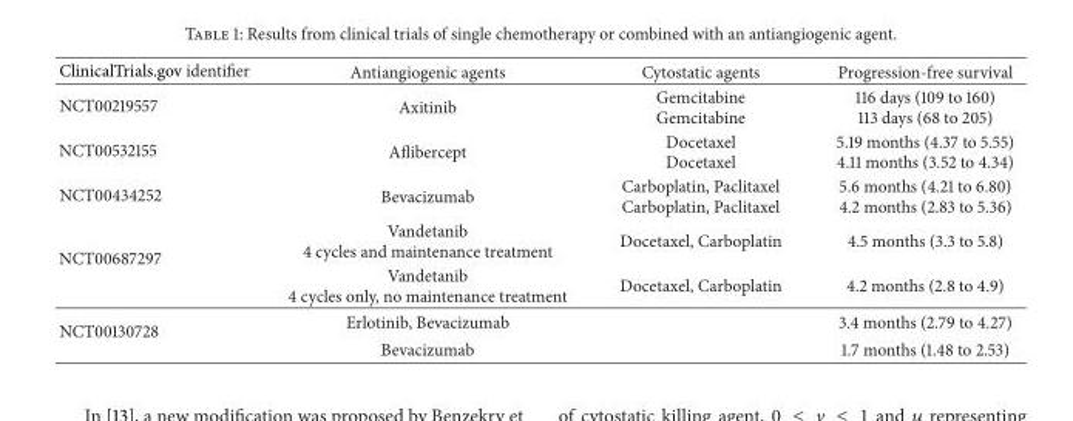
<table><thead><tr><td>ClinicalTrials.gov identifier</td><td>Antiangiogenic agents</td><td>Cytostatic agents</td><td>Progression-free survival</td></tr></thead><tbody><tr><td>NCT00219557</td><td>Axitinib</td><td>Gemcitabine Gemcitabine</td><td>116 days (109 to 160) 113 days (68 to 205)</td></tr><tr><td>NCT00532155</td><td>Aflibercept</td><td>Docetaxel Docetaxel</td><td>5.19 months (4.37 to 5.55) 4.11 months (3.52 to 4.34)</td></tr><tr><td>NCT00434252</td><td>Bevacizumab</td><td>Carboplatin, Paclitaxel Carboplatin, Paclitaxel</td><td>5.6 months (4.21 to 6.80) 4.2 months (2.83 to 5.36)</td></tr><tr><td rowspan="2">NCT00687297</td><td>Vandetanib 4 cycles and maintenance treatment</td><td>Docetaxel, Carboplatin</td><td>4.5 months (3.3 to 5.8)</td></tr><tr><td>Vandetanib 4 cycles only, no maintenance treatment</td><td>Docetaxel, Carboplatin</td><td>4.2 months (2.8 to 4.9)</td></tr><tr><td rowspan="2">NCT00130728</td><td>Erlotinib, Bevacizumab</td><td></td><td>3.4 months (2.79 to 4.27)</td></tr><tr><td>Bevacizumab</td><td></td><td>1.7 months (1.48 to 2.53)</td></tr></tbody></table>